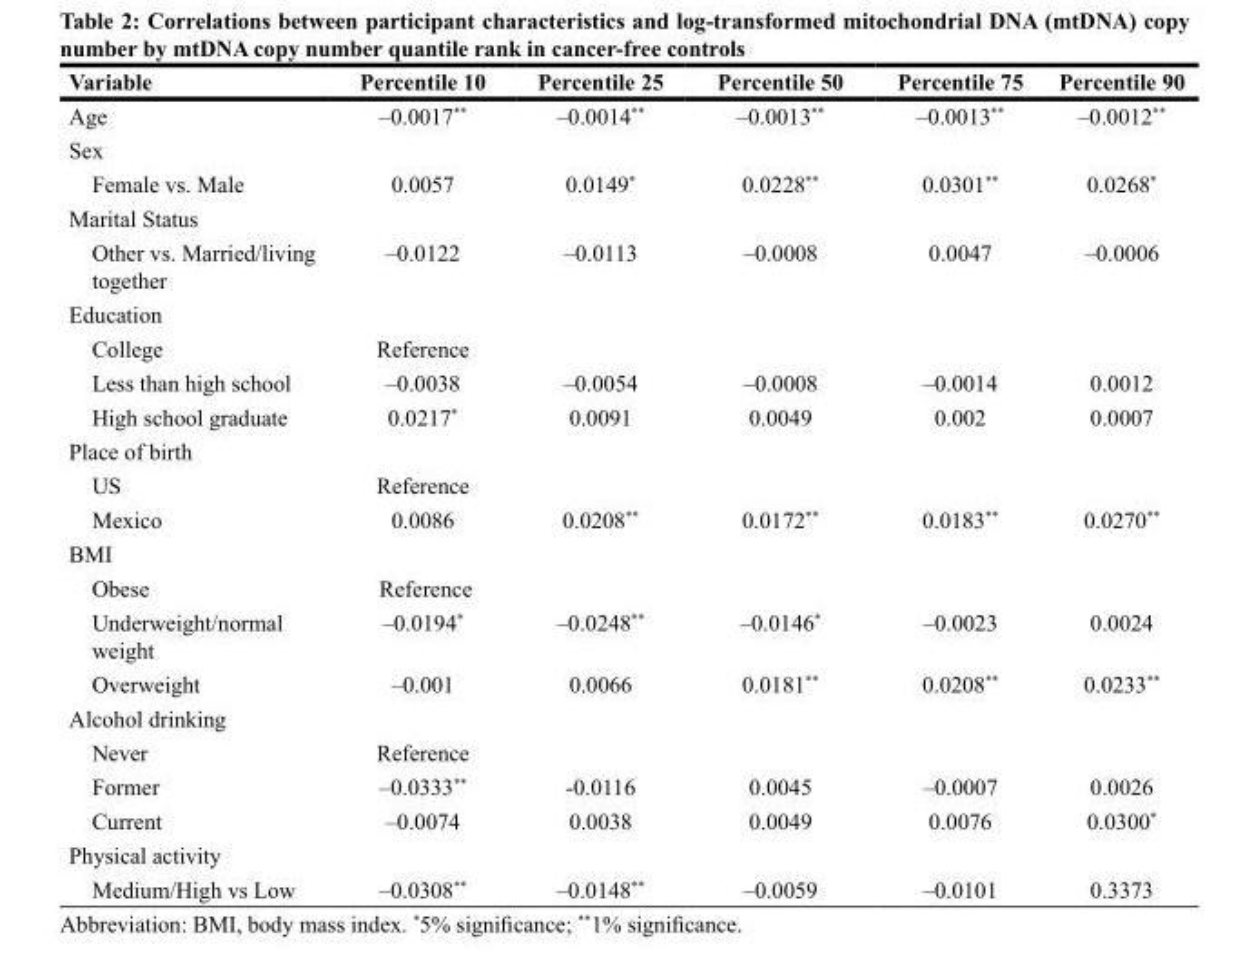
<table><thead><tr><td>Variable</td><td>Percentile 10</td><td>Percentile 25</td><td>Percentile 50</td><td>Percentile 75</td><td>Percentile 90</td></tr></thead><tbody><tr><td>Age</td><td>–0.0017**</td><td>–0.0014**</td><td>–0.0013**</td><td>–0.0013**</td><td>–0.0012**</td></tr><tr><td colspan="6">Sex</td></tr><tr><td>Female vs. Male</td><td>0.0057</td><td>0.0149*</td><td>0.0228**</td><td>0.0301**</td><td>0.0268*</td></tr><tr><td colspan="6">Marital Status</td></tr><tr><td>Other vs. Married/living together</td><td>–0.0122</td><td>–0.0113</td><td>–0.0008</td><td>0.0047</td><td>–0.0006</td></tr><tr><td colspan="6">Education</td></tr><tr><td>College</td><td>Reference</td><td></td><td></td><td></td><td></td></tr><tr><td>Less than high school</td><td>–0.0038</td><td>–0.0054</td><td>–0.0008</td><td>–0.0014</td><td>0.0012</td></tr><tr><td>High school graduate</td><td>0.0217*</td><td>0.0091</td><td>0.0049</td><td>0.002</td><td>0.0007</td></tr><tr><td colspan="6">Place of birth</td></tr><tr><td>US</td><td>Reference</td><td></td><td></td><td></td><td></td></tr><tr><td>Mexico</td><td>0.0086</td><td>0.0208**</td><td>0.0172**</td><td>0.0183**</td><td>0.0270**</td></tr><tr><td colspan="6">BMI</td></tr><tr><td>Obese</td><td>Reference</td><td></td><td></td><td></td><td></td></tr><tr><td>Underweight/normal weight</td><td>–0.0194*</td><td>–0.0248**</td><td>–0.0146*</td><td>–0.0023</td><td>0.0024</td></tr><tr><td>Overweight</td><td>–0.001</td><td>0.0066</td><td>0.0181**</td><td>0.0208**</td><td>0.0233**</td></tr><tr><td colspan="6">Alcohol drinking</td></tr><tr><td>Never</td><td>Reference</td><td></td><td></td><td></td><td></td></tr><tr><td>Former</td><td>–0.0333**</td><td>-0.0116</td><td>0.0045</td><td>–0.0007</td><td>0.0026</td></tr><tr><td>Current</td><td>–0.0074</td><td>0.0038</td><td>0.0049</td><td>0.0076</td><td>0.0300*</td></tr><tr><td colspan="6">Physical activity</td></tr><tr><td>Medium/High vs Low</td><td>–0.0308**</td><td>–0.0148**</td><td>–0.0059</td><td>–0.0101</td><td>0.3373</td></tr></tbody></table>